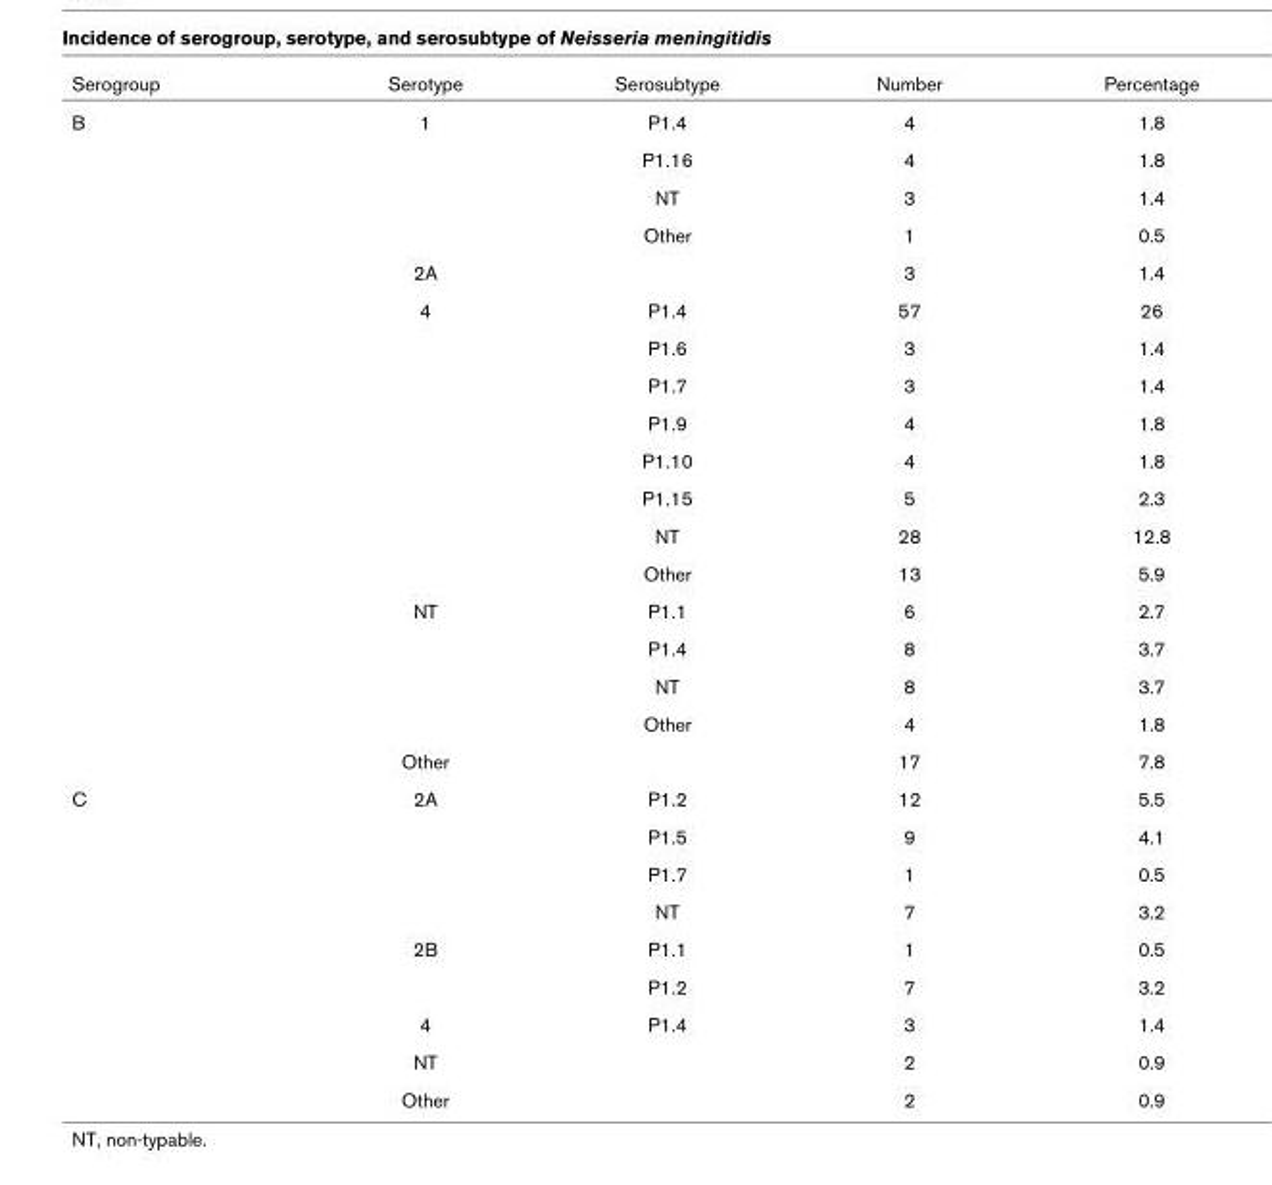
<table><thead><tr><td>Serogroup</td><td>Serotype</td><td>Serosubtype</td><td>Number</td><td>Percentage</td></tr></thead><tbody><tr><td rowspan="18">B</td><td>1</td><td>P1.4</td><td>4</td><td>1.8</td></tr><tr><td></td><td>P1.16</td><td>4</td><td>1.8</td></tr><tr><td></td><td>NT</td><td>3</td><td>1.4</td></tr><tr><td></td><td>Other</td><td>1</td><td>0.5</td></tr><tr><td>2A</td><td></td><td>3</td><td>1.4</td></tr><tr><td>4</td><td>P1.4</td><td>57</td><td>26</td></tr><tr><td></td><td>P1.6</td><td>3</td><td>1.4</td></tr><tr><td></td><td>P1.7</td><td>3</td><td>1.4</td></tr><tr><td></td><td>P1.9</td><td>4</td><td>1.8</td></tr><tr><td></td><td>P1.10</td><td>4</td><td>1.8</td></tr><tr><td></td><td>P1.15</td><td>5</td><td>2.3</td></tr><tr><td></td><td>NT</td><td>28</td><td>12.8</td></tr><tr><td></td><td>Other</td><td>13</td><td>5.9</td></tr><tr><td>NT</td><td>P1.1</td><td>6</td><td>2.7</td></tr><tr><td></td><td>P1.4</td><td>8</td><td>3.7</td></tr><tr><td></td><td>NT</td><td>8</td><td>3.7</td></tr><tr><td></td><td>Other</td><td>4</td><td>1.8</td></tr><tr><td>Other</td><td></td><td>17</td><td>7.8</td></tr><tr><td rowspan="9">C</td><td>2A</td><td>P1.2</td><td>12</td><td>5.5</td></tr><tr><td></td><td>P1.5</td><td>9</td><td>4.1</td></tr><tr><td></td><td>P1.7</td><td>1</td><td>0.5</td></tr><tr><td></td><td>NT</td><td>7</td><td>3.2</td></tr><tr><td>2B</td><td>P1.1</td><td>1</td><td>0.5</td></tr><tr><td></td><td>P1.2</td><td>7</td><td>3.2</td></tr><tr><td>4</td><td>P1.4</td><td>3</td><td>1.4</td></tr><tr><td>NT</td><td></td><td>2</td><td>0.9</td></tr><tr><td>Other</td><td></td><td>2</td><td>0.9</td></tr></tbody></table>